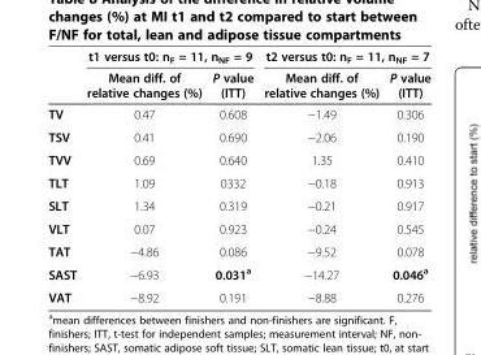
<table><thead><tr><td rowspan="2"></td><td colspan="2">t1 versus t0: n<sub>F</sub> = 11, n<sub>NF</sub> = 9</td><td colspan="2">t2 versus t0: n<sub>F</sub> = 11, n<sub>NF</sub> = 7</td></tr><tr><td>Mean diff. of relative changes (%)</td><td>P value (ITT)</td><td>Mean diff. of relative changes (%)</td><td>P value (ITT)</td></tr></thead><tbody><tr><td>TV</td><td>0.47</td><td>0.608</td><td>−1.49</td><td>0.306</td></tr><tr><td>TSV</td><td>0.41</td><td>0.690</td><td>−2.06</td><td>0.190</td></tr><tr><td>TVV</td><td>0.69</td><td>0.640</td><td>1.35</td><td>0.410</td></tr><tr><td>TLT</td><td>1.09</td><td>0332</td><td>−0.18</td><td>0.913</td></tr><tr><td>SLT</td><td>1.34</td><td>0.319</td><td>−0.21</td><td>0.917</td></tr><tr><td>VLT</td><td>0.07</td><td>0.923</td><td>−0.24</td><td>0.545</td></tr><tr><td>TAT</td><td>−4.86</td><td>0.086</td><td>−9.52</td><td>0.078</td></tr><tr><td>SAST</td><td>−6.93</td><td>0.031<sup>a</sup></td><td>−14.27</td><td>0.046<sup>a</sup></td></tr><tr><td>VAT</td><td>−8.92</td><td>0.191</td><td>−8.88</td><td>0.276</td></tr></tbody></table>